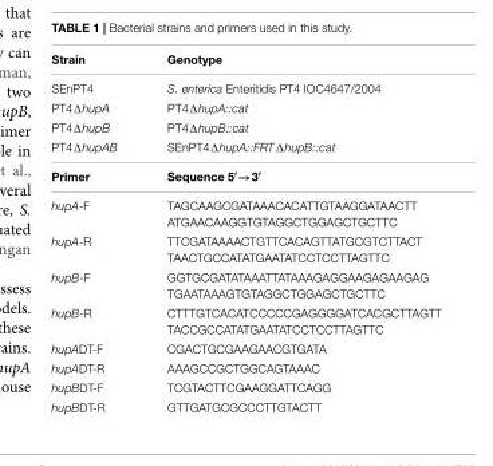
<table><thead><tr><td>Strain</td><td>Genotype</td></tr></thead><tbody><tr><td>SEnPT4</td><td>S. enterica Enteritidis PT4 IOC4647/2004</td></tr><tr><td>PT4ΔhupA</td><td>PT4ΔhupA::cat</td></tr><tr><td>PT4ΔhupB</td><td>PT4ΔhupB::cat</td></tr><tr><td>PT4ΔhupAB</td><td>SEnPT4ΔhupA::FRTΔhupB::cat</td></tr><tr><td>Primer</td><td>Sequence 5′→3′</td></tr><tr><td>hupA-F</td><td>TAGCAAGCGATAAACACATTGTAAGGATAACTT ATGAACAAGGTGTAGGCTGGAGCTGCTTC</td></tr><tr><td>hupA-R</td><td>TTCGATAAAACTGTTCACAGTTATGCGTCTTACT TAACTGCCATATGAATATCCTCCTTAGTTC</td></tr><tr><td>hupB-F</td><td>GGTGCGATATAAATTATAAAGAGGAAGAGAAGAG TGAATAAAGTGTAGGCTGGAGCTGCTTC</td></tr><tr><td>hupB-R</td><td>CTTTGTCACATCCCCCGAGGGGATCACGCTTAGTT TACCGCCATATGAATATCCTCCTTAGTTC</td></tr><tr><td>hupADT-F</td><td>CGACTGCGAAGAACGTGATA</td></tr><tr><td>hupADT-R</td><td>AAAGCCGCTGGCAGTAAAC</td></tr><tr><td>hupBDT-F</td><td>TCGTACTTCGAAGGATTCAGG</td></tr><tr><td>hupBDT-R</td><td>GTTGATGCGCCCTTGTACTT</td></tr></tbody></table>